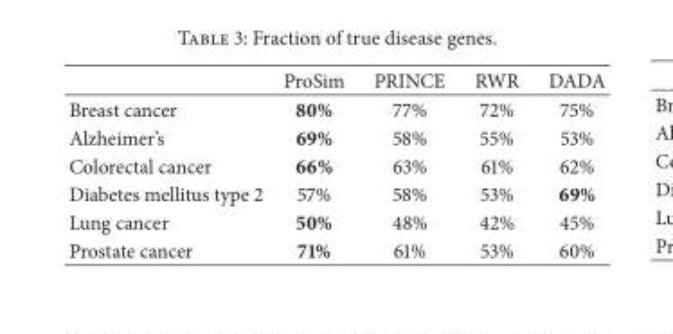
<table><thead><tr><td></td><td>ProSim</td><td>PRINCE</td><td>RWR</td><td>DADA</td></tr></thead><tbody><tr><td>Breast cancer</td><td>80%</td><td>77%</td><td>72%</td><td>75%</td></tr><tr><td>Alzheimer’s</td><td>69%</td><td>58%</td><td>55%</td><td>53%</td></tr><tr><td>Colorectal cancer</td><td>66%</td><td>63%</td><td>61%</td><td>62%</td></tr><tr><td>Diabetes mellitus type 2</td><td>57%</td><td>58%</td><td>53%</td><td>69%</td></tr><tr><td>Lung cancer</td><td>50%</td><td>48%</td><td>42%</td><td>45%</td></tr><tr><td>Prostate cancer</td><td>71%</td><td>61%</td><td>53%</td><td>60%</td></tr></tbody></table>